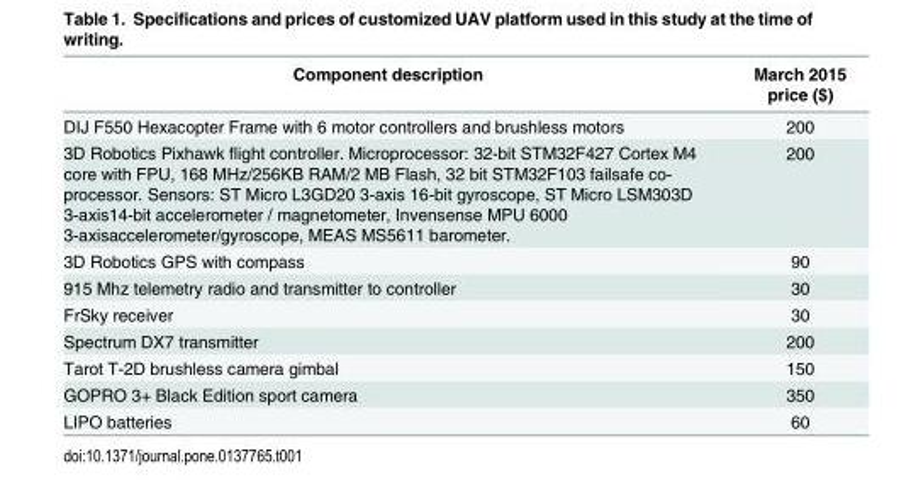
<table><thead><tr><td>Component description</td><td>March 2015 price ($)</td></tr></thead><tbody><tr><td>DIJ F550 Hexacopter Frame with 6 motor controllers and brushless motors</td><td>200</td></tr><tr><td>3D Robotics Pixhawk flight controller. Microprocessor: 32-bit STM32F427 Cortex M4 core with FPU, 168 MHz/256KB RAM/2 MB Flash, 32 bit STM32F103 failsafe co- processor. Sensors: ST Micro L3GD20 3-axis 16-bit gyroscope, ST Micro LSM303D 3-axis14-bit accelerometer / magnetometer, Invensense MPU 6000 3-axisaccelerometer/gyroscope, MEAS MS5611 barometer.</td><td>200</td></tr><tr><td>3D Robotics GPS with compass</td><td>90</td></tr><tr><td>915 Mhz telemetry radio and transmitter to controller</td><td>30</td></tr><tr><td>FrSky receiver</td><td>30</td></tr><tr><td>Spectrum DX7 transmitter</td><td>200</td></tr><tr><td>Tarot T-2D brushless camera gimbal</td><td>150</td></tr><tr><td>GOPRO 3+ Black Edition sport camera</td><td>350</td></tr><tr><td>LIPO batteries</td><td>60</td></tr></tbody></table>